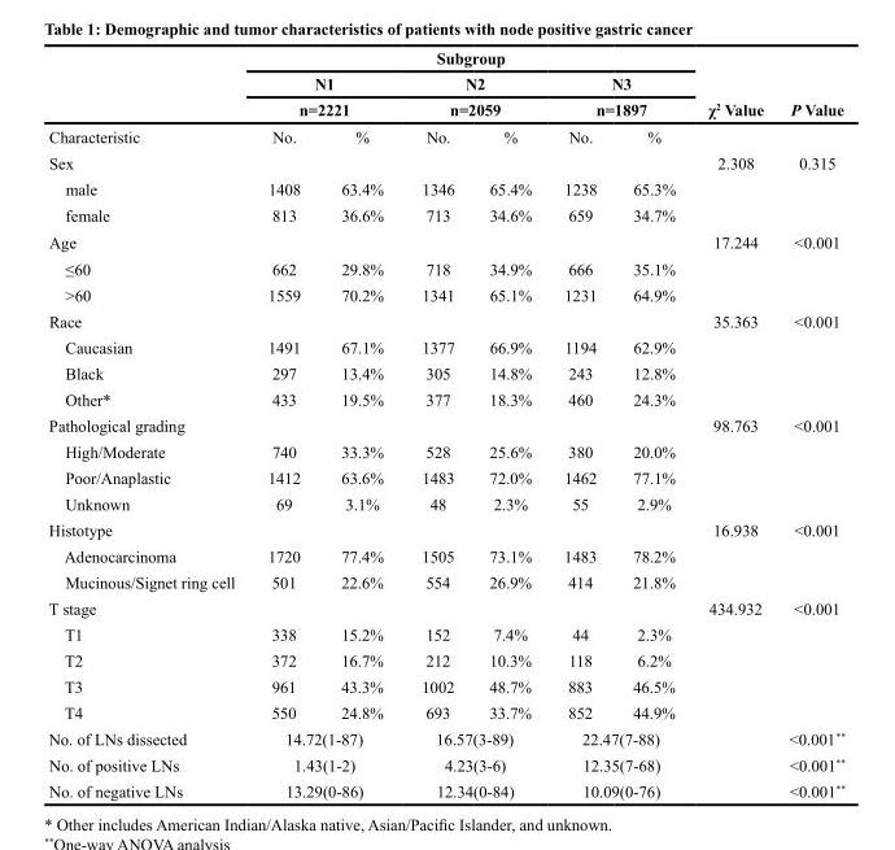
<table><thead><tr><td rowspan="4">Characteristic</td><td colspan="6">Subgroup</td><td rowspan="4">χ<sup>2</sup> Value</td><td rowspan="4">P Value</td></tr><tr><td rowspan="2" colspan="2">N1 n=2221</td><td rowspan="2" colspan="2">N2 n=2059</td><td rowspan="2" colspan="2">N3 n=1897</td></tr><tr></tr><tr><td>No.</td><td>%</td><td>No.</td><td>%</td><td>No.</td><td>%</td></tr></thead><tbody><tr><td>Sex</td><td></td><td></td><td></td><td></td><td></td><td></td><td>2.308</td><td>0.315</td></tr><tr><td>male</td><td>1408</td><td>63.4%</td><td>1346</td><td>65.4%</td><td>1238</td><td>65.3%</td><td></td><td></td></tr><tr><td>female</td><td>813</td><td>36.6%</td><td>713</td><td>34.6%</td><td>659</td><td>34.7%</td><td></td><td></td></tr><tr><td>Age</td><td></td><td></td><td></td><td></td><td></td><td></td><td>17.244</td><td>&lt;0.001</td></tr><tr><td>≤60</td><td>662</td><td>29.8%</td><td>718</td><td>34.9%</td><td>666</td><td>35.1%</td><td></td><td></td></tr><tr><td>&gt;60</td><td>1559</td><td>70.2%</td><td>1341</td><td>65.1%</td><td>1231</td><td>64.9%</td><td></td><td></td></tr><tr><td>Race</td><td></td><td></td><td></td><td></td><td></td><td></td><td>35.363</td><td>&lt;0.001</td></tr><tr><td>Caucasian</td><td>1491</td><td>67.1%</td><td>1377</td><td>66.9%</td><td>1194</td><td>62.9%</td><td></td><td></td></tr><tr><td>Black</td><td>297</td><td>13.4%</td><td>305</td><td>14.8%</td><td>243</td><td>12.8%</td><td></td><td></td></tr><tr><td>Other*</td><td>433</td><td>19.5%</td><td>377</td><td>18.3%</td><td>460</td><td>24.3%</td><td></td><td></td></tr><tr><td>Pathological grading</td><td></td><td></td><td></td><td></td><td></td><td></td><td>98.763</td><td>&lt;0.001</td></tr><tr><td>High/Moderate</td><td>740</td><td>33.3%</td><td>528</td><td>25.6%</td><td>380</td><td>20.0%</td><td></td><td></td></tr><tr><td>Poor/Anaplastic</td><td>1412</td><td>63.6%</td><td>1483</td><td>72.0%</td><td>1462</td><td>77.1%</td><td></td><td></td></tr><tr><td>Unknown</td><td>69</td><td>3.1%</td><td>48</td><td>2.3%</td><td>55</td><td>2.9%</td><td></td><td></td></tr><tr><td>Histotype</td><td></td><td></td><td></td><td></td><td></td><td></td><td>16.938</td><td>&lt;0.001</td></tr><tr><td>Adenocarcinoma</td><td>1720</td><td>77.4%</td><td>1505</td><td>73.1%</td><td>1483</td><td>78.2%</td><td></td><td></td></tr><tr><td>Mucinous/Signet ring cell</td><td>501</td><td>22.6%</td><td>554</td><td>26.9%</td><td>414</td><td>21.8%</td><td></td><td></td></tr><tr><td>T stage</td><td></td><td></td><td></td><td></td><td></td><td></td><td>434.932</td><td>&lt;0.001</td></tr><tr><td>T1</td><td>338</td><td>15.2%</td><td>152</td><td>7.4%</td><td>44</td><td>2.3%</td><td></td><td></td></tr><tr><td>T2</td><td>372</td><td>16.7%</td><td>212</td><td>10.3%</td><td>118</td><td>6.2%</td><td></td><td></td></tr><tr><td>T3</td><td>961</td><td>43.3%</td><td>1002</td><td>48.7%</td><td>883</td><td>46.5%</td><td></td><td></td></tr><tr><td>T4</td><td>550</td><td>24.8%</td><td>693</td><td>33.7%</td><td>852</td><td>44.9%</td><td></td><td></td></tr><tr><td>No. of LNs dissected</td><td colspan="2">14.72(1-87)</td><td colspan="2">16.57(3-89)</td><td colspan="2">22.47(7-88)</td><td></td><td>&lt;0.001**</td></tr><tr><td>No. of positive LNs</td><td colspan="2">1.43(1-2)</td><td colspan="2">4.23(3-6)</td><td colspan="2">12.35(7-68)</td><td></td><td>&lt;0.001**</td></tr><tr><td>No. of negative LNs</td><td colspan="2">13.29(0-86)</td><td colspan="2">12.34(0-84)</td><td colspan="2">10.09(0-76)</td><td></td><td>&lt;0.001**</td></tr></tbody></table>